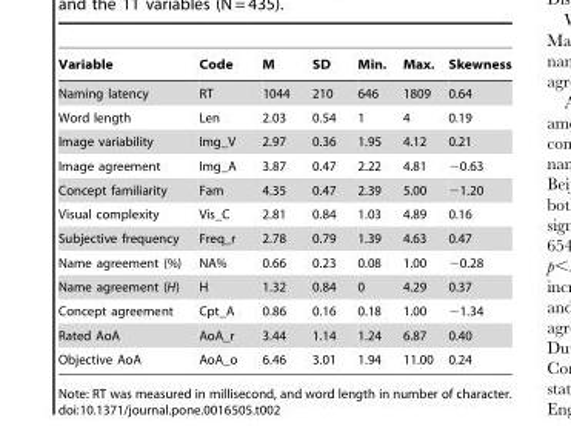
<table><thead><tr><td>Variable</td><td>Code</td><td>M</td><td>SD</td><td>Min.</td><td>Max.</td><td>Skewness</td></tr></thead><tbody><tr><td>Naming latency</td><td>RT</td><td>1044</td><td>210</td><td>646</td><td>1809</td><td>0.64</td></tr><tr><td>Word length</td><td>Len</td><td>2.03</td><td>0.54</td><td>1</td><td>4</td><td>0.19</td></tr><tr><td>Image variability</td><td>Img_V</td><td>2.97</td><td>0.36</td><td>1.95</td><td>4.12</td><td>0.21</td></tr><tr><td>Image agreement</td><td>Img_A</td><td>3.87</td><td>0.47</td><td>2.22</td><td>4.81</td><td>−0.63</td></tr><tr><td>Concept familiarity</td><td>Fam</td><td>4.35</td><td>0.47</td><td>2.39</td><td>5.00</td><td>−1.20</td></tr><tr><td>Visual complexity</td><td>Vis_C</td><td>2.81</td><td>0.84</td><td>1.03</td><td>4.89</td><td>0.16</td></tr><tr><td>Subjective frequency</td><td>Freq_r</td><td>2.78</td><td>0.79</td><td>1.39</td><td>4.63</td><td>0.47</td></tr><tr><td>Name agreement (%)</td><td>NA%</td><td>0.66</td><td>0.23</td><td>0.08</td><td>1.00</td><td>−0.28</td></tr><tr><td>Name agreement (H)</td><td>H</td><td>1.32</td><td>0.84</td><td>0</td><td>4.29</td><td>0.37</td></tr><tr><td>Concept agreement</td><td>Cpt_A</td><td>0.86</td><td>0.16</td><td>0.18</td><td>1.00</td><td>−1.34</td></tr><tr><td>Rated AoA</td><td>AoA_r</td><td>3.44</td><td>1.14</td><td>1.24</td><td>6.87</td><td>0.40</td></tr><tr><td>Objective AoA</td><td>AoA_o</td><td>6.46</td><td>3.01</td><td>1.94</td><td>11.00</td><td>0.24</td></tr></tbody></table>